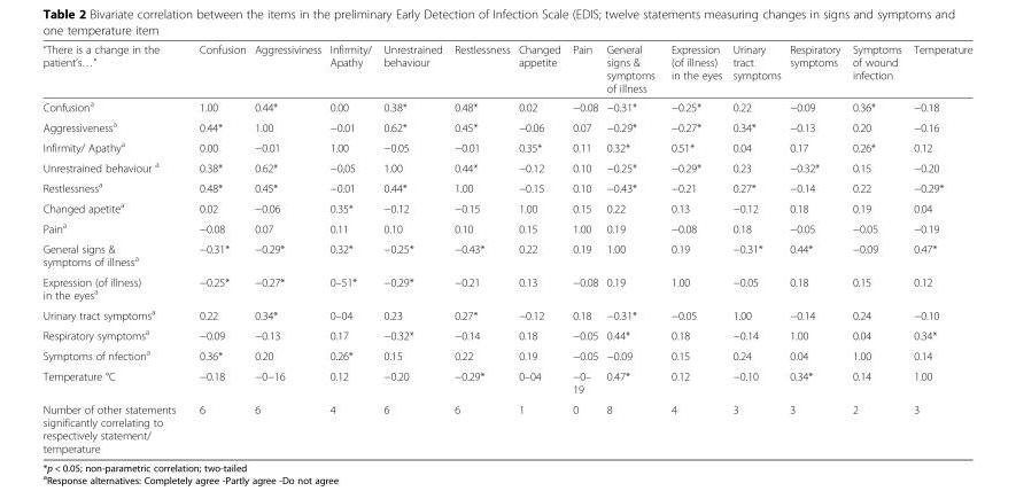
<table><thead><tr><td>“There is a change in the patient’s…”</td><td>Confusion</td><td>Aggressiviness</td><td>Infirmity/ Apathy</td><td>Unrestrained behaviour</td><td>Restlessness</td><td>Changed appetite</td><td>Pain</td><td>General signs &amp; symptoms of illness</td><td>Expression (of illness) in the eyes</td><td>Urinary tract symptoms</td><td>Respiratory symptoms</td><td>Symptoms of wound infection</td><td>Temperature</td></tr></thead><tbody><tr><td>Confusion<sup>a</sup></td><td>1.00</td><td>0.44*</td><td>0.00</td><td>0.38*</td><td>0.48*</td><td>0.02</td><td>−0.08</td><td>−0.31*</td><td>−0.25*</td><td>0.22</td><td>−0.09</td><td>0.36*</td><td>−0.18</td></tr><tr><td>Aggressiveness<sup>a</sup></td><td>0.44*</td><td>1.00</td><td>−0.01</td><td>0.62*</td><td>0.45*</td><td>−0.06</td><td>0.07</td><td>−0.29*</td><td>−0.27*</td><td>0.34*</td><td>−0.13</td><td>0.20</td><td>−0.16</td></tr><tr><td>Infirmity/ Apathy<sup>a</sup></td><td>0.00</td><td>−0.01</td><td>1.00</td><td>−0.05</td><td>−0.01</td><td>0.35*</td><td>0.11</td><td>0.32*</td><td>0.51*</td><td>0.04</td><td>0.17</td><td>0.26*</td><td>0.12</td></tr><tr><td>Unrestrained behaviour <sup>a</sup></td><td>0.38*</td><td>0.62*</td><td>−0,05</td><td>1.00</td><td>0.44*</td><td>−0.12</td><td>0.10</td><td>−0.25*</td><td>−0.29*</td><td>0.23</td><td>−0.32*</td><td>0.15</td><td>−0.20</td></tr><tr><td>Restlessness<sup>a</sup></td><td>0.48*</td><td>0.45*</td><td>−0.01</td><td>0.44*</td><td>1.00</td><td>−0.15</td><td>0.10</td><td>−0.43*</td><td>−0.21</td><td>0.27*</td><td>−0.14</td><td>0.22</td><td>−0.29*</td></tr><tr><td>Changed apetite<sup>a</sup></td><td>0.02</td><td>−0.06</td><td>0.35*</td><td>−0.12</td><td>−0.15</td><td>1.00</td><td>0.15</td><td>0.22</td><td>0.13</td><td>−0.12</td><td>0.18</td><td>0.19</td><td>0.04</td></tr><tr><td>Pain<sup>a</sup></td><td>−0.08</td><td>0.07</td><td>0.11</td><td>0.10</td><td>0.10</td><td>0.15</td><td>1.00</td><td>0.19</td><td>−0.08</td><td>0.18</td><td>−0.05</td><td>−0.05</td><td>−0.19</td></tr><tr><td>General signs &amp; symptoms of illness<sup>a</sup></td><td>−0.31*</td><td>−0.29*</td><td>0.32*</td><td>−0.25*</td><td>−0.43*</td><td>0.22</td><td>0.19</td><td>1.00</td><td>0.19</td><td>−0.31*</td><td>0.44*</td><td>−0.09</td><td>0.47*</td></tr><tr><td>Expression (of illness) in the eyes<sup>a</sup></td><td>−0.25*</td><td>−0.27*</td><td>0–51*</td><td>−0.29*</td><td>−0.21</td><td>0.13</td><td>−0.08</td><td>0.19</td><td>1.00</td><td>−0.05</td><td>0.18</td><td>0.15</td><td>0.12</td></tr><tr><td>Urinary tract symptoms<sup>a</sup></td><td>0.22</td><td>0.34*</td><td>0–04</td><td>0.23</td><td>0.27*</td><td>−0.12</td><td>0.18</td><td>−0.31*</td><td>−0.05</td><td>1.00</td><td>−0.14</td><td>0.24</td><td>−0.10</td></tr><tr><td>Respiratory symptoms<sup>a</sup></td><td>−0.09</td><td>−0.13</td><td>0.17</td><td>−0.32*</td><td>−0.14</td><td>0.18</td><td>−0.05</td><td>0.44*</td><td>0.18</td><td>−0.14</td><td>1.00</td><td>0.04</td><td>0.34*</td></tr><tr><td>Symptoms of nfection<sup>a</sup></td><td>0.36*</td><td>0.20</td><td>0.26*</td><td>0.15</td><td>0.22</td><td>0.19</td><td>−0.05</td><td>−0.09</td><td>0.15</td><td>0.24</td><td>0.04</td><td>1.00</td><td>0.14</td></tr><tr><td>Temperature °C</td><td>−0.18</td><td>−0−16</td><td>0.12</td><td>−0.20</td><td>−0.29*</td><td>0–04</td><td>−0– 19</td><td>0.47*</td><td>0.12</td><td>−0.10</td><td>0.34*</td><td>0.14</td><td>1.00</td></tr><tr><td>Number of other statements significantly correlating to respectively statement/ temperature</td><td>6</td><td>6</td><td>4</td><td>6</td><td>6</td><td>1</td><td>0</td><td>8</td><td>4</td><td>3</td><td>3</td><td>2</td><td>3</td></tr></tbody></table>